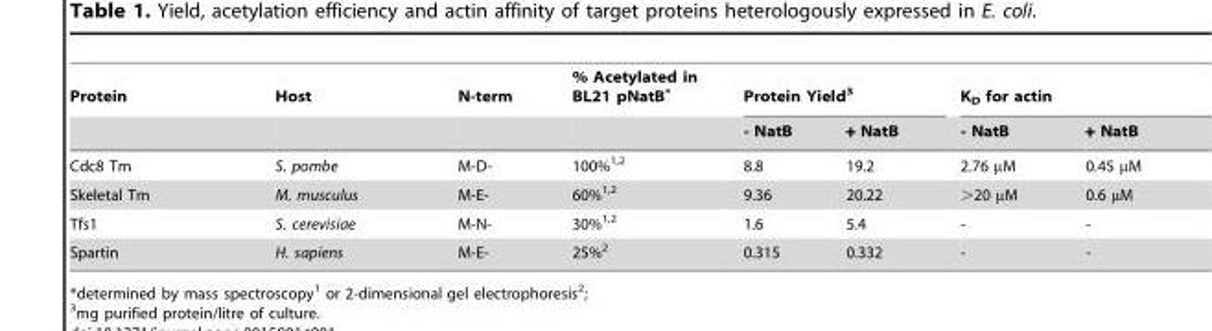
<table><thead><tr><td rowspan="2">Protein</td><td rowspan="2">Host</td><td rowspan="2">N-term</td><td rowspan="2">% Acetylated in BL21 pNatB*</td><td colspan="2">Protein Yield<sup>3</sup></td><td colspan="2">K<sub>D</sub> for actin</td></tr><tr><td>- NatB</td><td>+ NatB</td><td>- NatB</td><td>+ NatB</td></tr></thead><tbody><tr><td>Cdc8 Tm</td><td>S. pombe</td><td>M-D-</td><td>100%<sup>1,2</sup></td><td>8.8</td><td>19.2</td><td>2.76 µM</td><td>0.45 µM</td></tr><tr><td>Skeletal Tm</td><td>M. musculus</td><td>M-E-</td><td>60%<sup>1,2</sup></td><td>9.36</td><td>20.22</td><td>&gt;20 µM</td><td>0.6 µM</td></tr><tr><td>Tfs1</td><td>S. cerevisiae</td><td>M-N-</td><td>30%<sup>1,2</sup></td><td>1.6</td><td>5.4</td><td>-</td><td>-</td></tr><tr><td>Spartin</td><td>H. sapiens</td><td>M-E-</td><td>25%<sup>2</sup></td><td>0.315</td><td>0.332</td><td>-</td><td>-</td></tr></tbody></table>